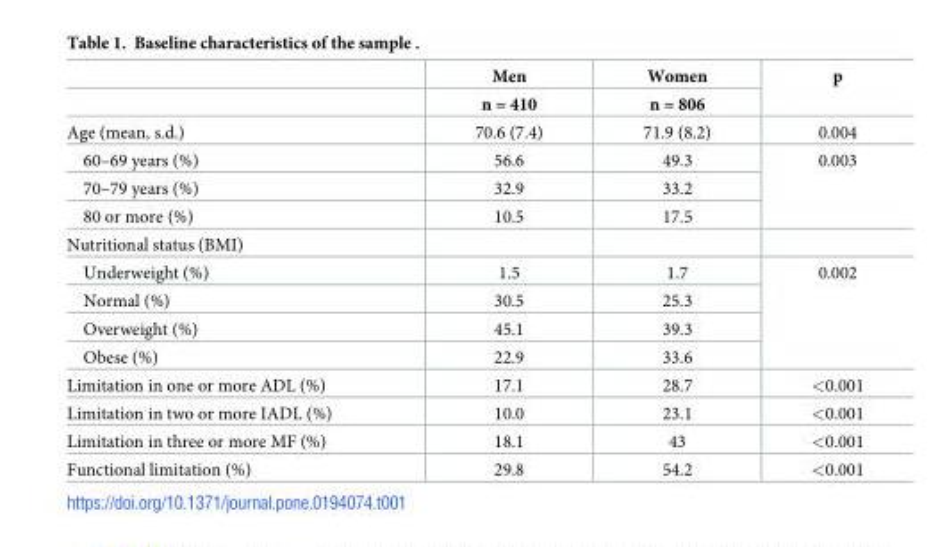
<table><thead><tr><td rowspan="2"></td><td rowspan="2">Men n = 410</td><td rowspan="2">Women n = 806</td><td rowspan="2">p</td></tr><tr></tr></thead><tbody><tr><td>Age (mean, s.d.)</td><td>70.6 (7.4)</td><td>71.9 (8.2)</td><td>0.004</td></tr><tr><td>60–69 years (%)</td><td>56.6</td><td>49.3</td><td rowspan="3">0.003</td></tr><tr><td>70–79 years (%)</td><td>32.9</td><td>33.2</td></tr><tr><td>80 or more (%)</td><td>10.5</td><td>17.5</td></tr><tr><td colspan="4">Nutritional status (BMI)</td></tr><tr><td>Underweight (%)</td><td>1.5</td><td>1.7</td><td rowspan="4">0.002</td></tr><tr><td>Normal (%)</td><td>30.5</td><td>25.3</td></tr><tr><td>Overweight (%)</td><td>45.1</td><td>39.3</td></tr><tr><td>Obese (%)</td><td>22.9</td><td>33.6</td></tr><tr><td>Limitation in one or more ADL (%)</td><td>17.1</td><td>28.7</td><td>&lt;0.001</td></tr><tr><td>Limitation in two or more IADL (%)</td><td>10.0</td><td>23.1</td><td>&lt;0.001</td></tr><tr><td>Limitation in three or more MF (%)</td><td>18.1</td><td>43</td><td>&lt;0.001</td></tr><tr><td>Functional limitation (%)</td><td>29.8</td><td>54.2</td><td>&lt;0.001</td></tr></tbody></table>